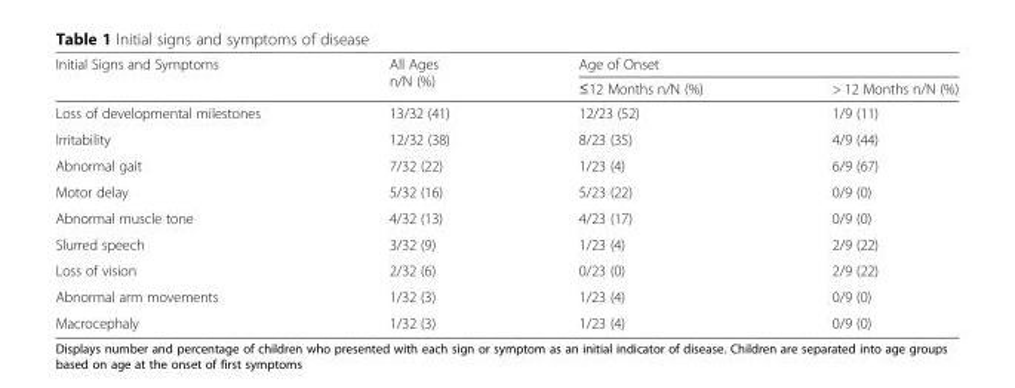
<table><thead><tr><td rowspan="2">Initial Signs and Symptoms</td><td rowspan="2">All Ages n/N (%)</td><td colspan="2">Age of Onset</td></tr><tr><td>≤12 Months n/N (%)</td><td>&gt; 12 Months n/N (%)</td></tr></thead><tbody><tr><td>Loss of developmental milestones</td><td>13/32 (41)</td><td>12/23 (52)</td><td>1/9 (11)</td></tr><tr><td>Irritability</td><td>12/32 (38)</td><td>8/23 (35)</td><td>4/9 (44)</td></tr><tr><td>Abnormal gait</td><td>7/32 (22)</td><td>1/23 (4)</td><td>6/9 (67)</td></tr><tr><td>Motor delay</td><td>5/32 (16)</td><td>5/23 (22)</td><td>0/9 (0)</td></tr><tr><td>Abnormal muscle tone</td><td>4/32 (13)</td><td>4/23 (17)</td><td>0/9 (0)</td></tr><tr><td>Slurred speech</td><td>3/32 (9)</td><td>1/23 (4)</td><td>2/9 (22)</td></tr><tr><td>Loss of vision</td><td>2/32 (6)</td><td>0/23 (0)</td><td>2/9 (22)</td></tr><tr><td>Abnormal arm movements</td><td>1/32 (3)</td><td>1/23 (4)</td><td>0/9 (0)</td></tr><tr><td>Macrocephaly</td><td>1/32 (3)</td><td>1/23 (4)</td><td>0/9 (0)</td></tr></tbody></table>